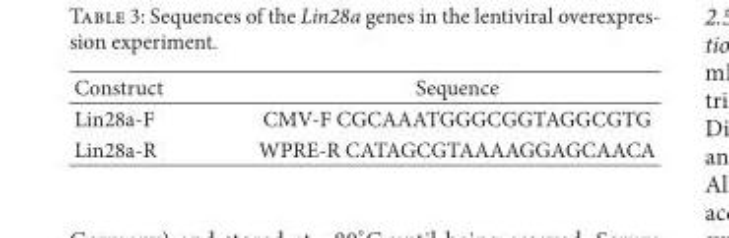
<table><thead><tr><td>Construct</td><td>Sequence</td></tr></thead><tbody><tr><td>Lin28a-F</td><td>CMV-F CGCAAATGGGCGGTAGGCGTG</td></tr><tr><td>Lin28a-R</td><td>WPRE-R CATAGCGTAAAAGGAGCAACA</td></tr></tbody></table>